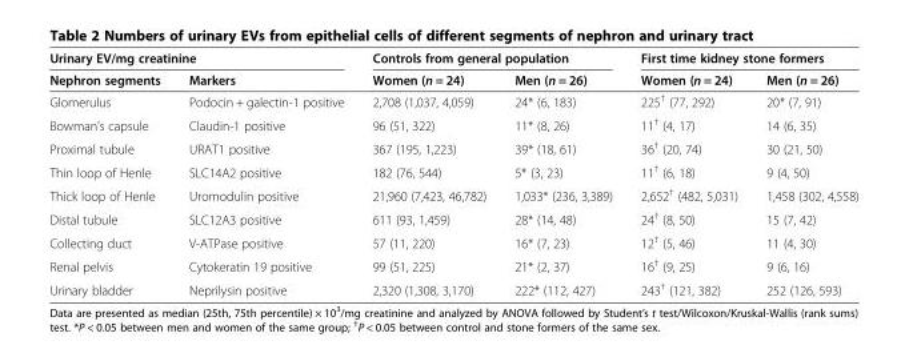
<table><thead><tr><td colspan="2">Urinary EV/mg creatinine</td><td colspan="2">Controls from general population</td><td colspan="2">First time kidney stone formers</td></tr><tr><td>Nephron segments</td><td>Markers</td><td>Women (n = 24)</td><td>Men (n = 26)</td><td>Women (n = 24)</td><td>Men (n = 26)</td></tr></thead><tbody><tr><td>Glomerulus</td><td>Podocin + galectin-1 positive</td><td>2,708 (1,037, 4,059)</td><td>24* (6, 183)</td><td>225<sup>†</sup> (77, 292)</td><td>20* (7, 91)</td></tr><tr><td>Bowman’s capsule</td><td>Claudin-1 positive</td><td>96 (51, 322)</td><td>11* (8, 26)</td><td>11<sup>†</sup> (4, 17)</td><td>14 (6, 35)</td></tr><tr><td>Proximal tubule</td><td>URAT1 positive</td><td>367 (195, 1,223)</td><td>39* (18, 61)</td><td>36<sup>†</sup> (20, 74)</td><td>30 (21, 50)</td></tr><tr><td>Thin loop of Henle</td><td>SLC14A2 positive</td><td>182 (76, 544)</td><td>5* (3, 23)</td><td>11<sup>†</sup> (6, 18)</td><td>9 (4, 50)</td></tr><tr><td>Thick loop of Henle</td><td>Uromodulin positive</td><td>21,960 (7,423, 46,782)</td><td>1,033* (236, 3,389)</td><td>2,652<sup>†</sup> (482, 5,031)</td><td>1,458 (302, 4,558)</td></tr><tr><td>Distal tubule</td><td>SLC12A3 positive</td><td>611 (93, 1,459)</td><td>28* (14, 48)</td><td>24<sup>†</sup> (8, 50)</td><td>15 (7, 42)</td></tr><tr><td>Collecting duct</td><td>V-ATPase positive</td><td>57 (11, 220)</td><td>16* (7, 23)</td><td>12<sup>†</sup> (5, 46)</td><td>11 (4, 30)</td></tr><tr><td>Renal pelvis</td><td>Cytokeratin 19 positive</td><td>99 (51, 225)</td><td>21* (2, 37)</td><td>16<sup>†</sup> (9, 25)</td><td>9 (6, 16)</td></tr><tr><td>Urinary bladder</td><td>Neprilysin positive</td><td>2,320 (1,308, 3,170)</td><td>222* (112, 427)</td><td>243<sup>†</sup> (121, 382)</td><td>252 (126, 593)</td></tr></tbody></table>